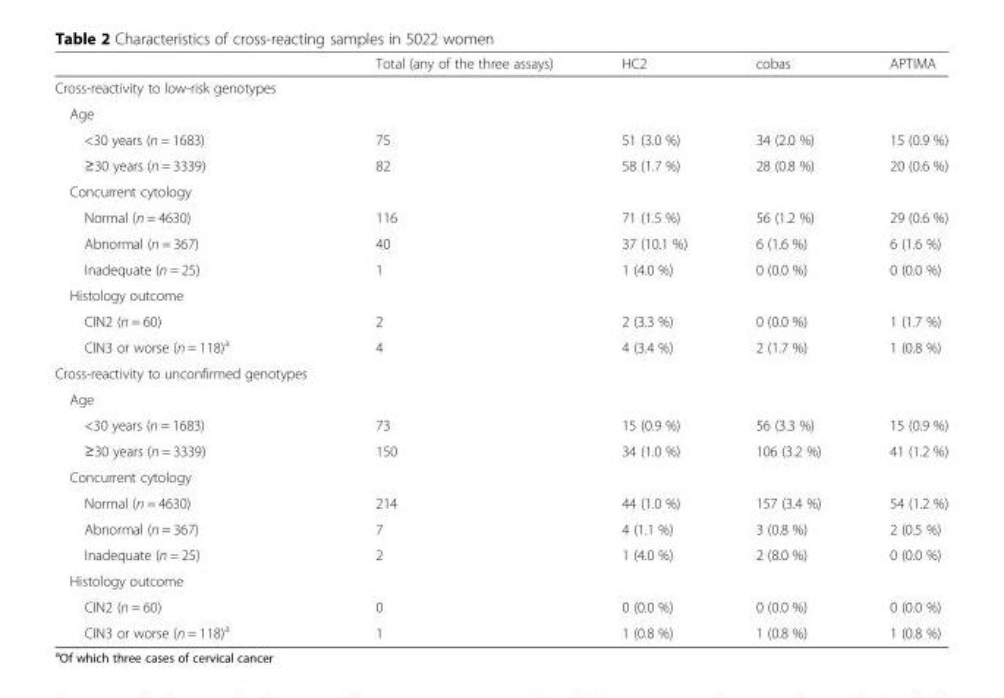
<table><thead><tr><td></td><td>Total (any of the three assays)</td><td>HC2</td><td>cobas</td><td>APTIMA</td></tr></thead><tbody><tr><td colspan="5">Cross-reactivity to low-risk genotypes</td></tr><tr><td colspan="5">Age</td></tr><tr><td>&lt;30 years (n = 1683)</td><td>75</td><td>51 (3.0 %)</td><td>34 (2.0 %)</td><td>15 (0.9 %)</td></tr><tr><td>≥30 years (n = 3339)</td><td>82</td><td>58 (1.7 %)</td><td>28 (0.8 %)</td><td>20 (0.6 %)</td></tr><tr><td colspan="5">Concurrent cytology</td></tr><tr><td>Normal (n = 4630)</td><td>116</td><td>71 (1.5 %)</td><td>56 (1.2 %)</td><td>29 (0.6 %)</td></tr><tr><td>Abnormal (n = 367)</td><td>40</td><td>37 (10.1 %)</td><td>6 (1.6 %)</td><td>6 (1.6 %)</td></tr><tr><td>Inadequate (n = 25)</td><td>1</td><td>1 (4.0 %)</td><td>0 (0.0 %)</td><td>0 (0.0 %)</td></tr><tr><td colspan="5">Histology outcome</td></tr><tr><td>CIN2 (n = 60)</td><td>2</td><td>2 (3.3 %)</td><td>0 (0.0 %)</td><td>1 (1.7 %)</td></tr><tr><td>CIN3 or worse (n = 118)<sup>a</sup></td><td>4</td><td>4 (3.4 %)</td><td>2 (1.7 %)</td><td>1 (0.8 %)</td></tr><tr><td colspan="5">Cross-reactivity to unconfirmed genotypes</td></tr><tr><td colspan="5">Age</td></tr><tr><td>&lt;30 years (n = 1683)</td><td>73</td><td>15 (0.9 %)</td><td>56 (3.3 %)</td><td>15 (0.9 %)</td></tr><tr><td>≥30 years (n = 3339)</td><td>150</td><td>34 (1.0 %)</td><td>106 (3.2 %)</td><td>41 (1.2 %)</td></tr><tr><td colspan="5">Concurrent cytology</td></tr><tr><td>Normal (n = 4630)</td><td>214</td><td>44 (1.0 %)</td><td>157 (3.4 %)</td><td>54 (1.2 %)</td></tr><tr><td>Abnormal (n = 367)</td><td>7</td><td>4 (1.1 %)</td><td>3 (0.8 %)</td><td>2 (0.5 %)</td></tr><tr><td>Inadequate (n = 25)</td><td>2</td><td>1 (4.0 %)</td><td>2 (8.0 %)</td><td>0 (0.0 %)</td></tr><tr><td colspan="5">Histology outcome</td></tr><tr><td>CIN2 (n = 60)</td><td>0</td><td>0 (0.0 %)</td><td>0 (0.0 %)</td><td>0 (0.0 %)</td></tr><tr><td>CIN3 or worse (n = 118)<sup>a</sup></td><td>1</td><td>1 (0.8 %)</td><td>1 (0.8 %)</td><td>1 (0.8 %)</td></tr></tbody></table>